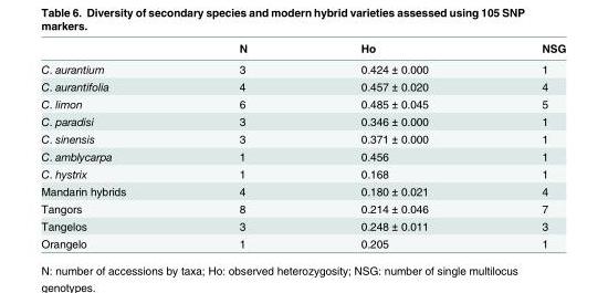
<table><thead><tr><td></td><td>N</td><td>Ho</td><td>NSG</td></tr></thead><tbody><tr><td>C. aurantium</td><td>3</td><td>0.424 ± 0.000</td><td>1</td></tr><tr><td>C. aurantifolia</td><td>4</td><td>0.457 ± 0.020</td><td>4</td></tr><tr><td>C. limon</td><td>6</td><td>0.485 ± 0.045</td><td>5</td></tr><tr><td>C. paradisi</td><td>3</td><td>0.346 ± 0.000</td><td>1</td></tr><tr><td>C. sinensis</td><td>3</td><td>0.371 ± 0.000</td><td>1</td></tr><tr><td>C. amblycarpa</td><td>1</td><td>0.456</td><td>1</td></tr><tr><td>C. hystrix</td><td>1</td><td>0.168</td><td>1</td></tr><tr><td>Mandarin hybrids</td><td>4</td><td>0.180 ± 0.021</td><td>4</td></tr><tr><td>Tangors</td><td>8</td><td>0.214 ± 0.046</td><td>7</td></tr><tr><td>Tangelos</td><td>3</td><td>0.248 ± 0.011</td><td>3</td></tr><tr><td>Orangelo</td><td>1</td><td>0.205</td><td>1</td></tr></tbody></table>